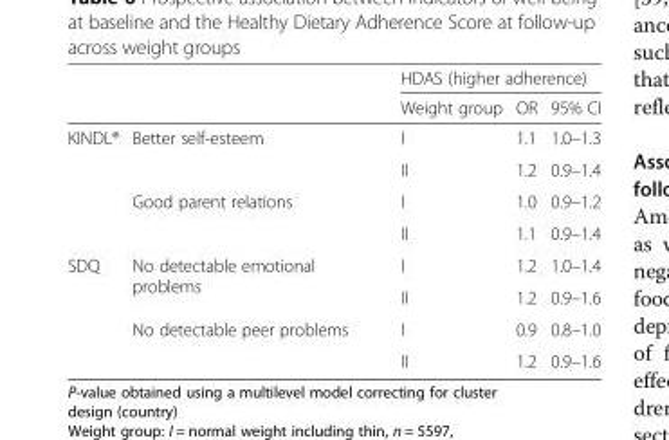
<table><thead><tr><td rowspan="2"></td><td rowspan="2"></td><td colspan="3">HDAS (higher adherence)</td></tr><tr><td>Weight group</td><td>OR</td><td>95% CI</td></tr></thead><tbody><tr><td rowspan="4">KINDL®</td><td rowspan="2">Better self-esteem</td><td>I</td><td>1.1</td><td>1.0–1.3</td></tr><tr><td>II</td><td>1.2</td><td>0.9–1.4</td></tr><tr><td rowspan="2">Good parent relations</td><td>I</td><td>1.0</td><td>0.9–1.2</td></tr><tr><td>II</td><td>1.1</td><td>0.9–1.4</td></tr><tr><td rowspan="4">SDQ</td><td rowspan="2">No detectable emotional problems</td><td>I</td><td>1.2</td><td>1.0–1.4</td></tr><tr><td>II</td><td>1.2</td><td>0.9–1.6</td></tr><tr><td rowspan="2">No detectable peer problems</td><td>I</td><td>0.9</td><td>0.8–1.0</td></tr><tr><td>II</td><td>1.2</td><td>0.9–1.6</td></tr></tbody></table>